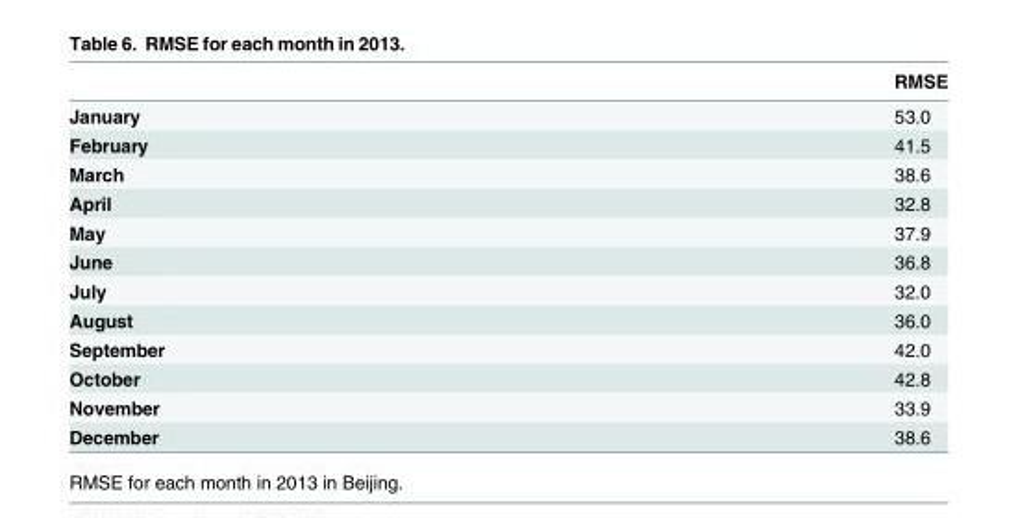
<table><thead><tr><td></td><td>RMSE</td></tr></thead><tbody><tr><td>January</td><td>53.0</td></tr><tr><td>February</td><td>41.5</td></tr><tr><td>March</td><td>38.6</td></tr><tr><td>April</td><td>32.8</td></tr><tr><td>May</td><td>37.9</td></tr><tr><td>June</td><td>36.8</td></tr><tr><td>July</td><td>32.0</td></tr><tr><td>August</td><td>36.0</td></tr><tr><td>September</td><td>42.0</td></tr><tr><td>October</td><td>42.8</td></tr><tr><td>November</td><td>33.9</td></tr><tr><td>December</td><td>38.6</td></tr></tbody></table>